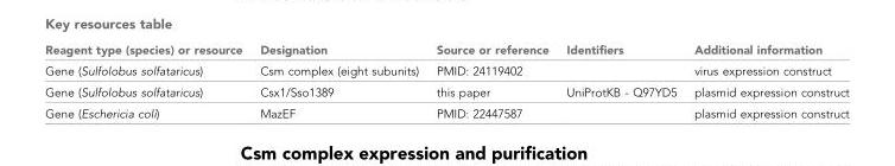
<table><thead><tr><td>Reagent type (species) or resource</td><td>Designation</td><td>Source or reference</td><td>Identifiers</td><td>Additional information</td></tr></thead><tbody><tr><td>Gene (Sulfolobus solfataricus)</td><td>Csm complex (eight subunits)</td><td>PMID: 24119402</td><td></td><td>virus expression construct</td></tr><tr><td>Gene (Sulfolobus solfataricus)</td><td>Csx1/Sso1389</td><td>this paper</td><td>UniProtKB - Q97YD5</td><td>plasmid expression construct</td></tr><tr><td>Gene (Eschericia coli)</td><td>MazEF</td><td>PMID: 22447587</td><td></td><td>plasmid expression construct</td></tr></tbody></table>